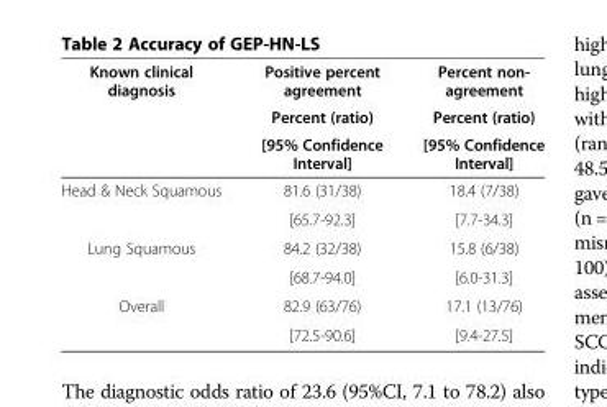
<table><thead><tr><td rowspan="3">Known clinical diagnosis</td><td rowspan="3">Positive percent agreement Percent (ratio) [95% Confidence Interval]</td><td rowspan="3">Percent non- agreement Percent (ratio) [95% Confidence Interval]</td></tr><tr></tr><tr></tr></thead><tbody><tr><td rowspan="2">Head &amp; Neck Squamous</td><td>81.6 (31/38)</td><td>18.4 (7/38)</td></tr><tr><td>[65.7-92.3]</td><td>[7.7-34.3]</td></tr><tr><td rowspan="2">Lung Squamous</td><td>84.2 (32/38)</td><td>15.8 (6/38)</td></tr><tr><td>[68.7-94.0]</td><td>[6.0-31.3]</td></tr><tr><td rowspan="2">Overall</td><td>82.9 (63/76)</td><td>17.1 (13/76)</td></tr><tr><td>[72.5-90.6]</td><td>[9.4-27.5]</td></tr></tbody></table>